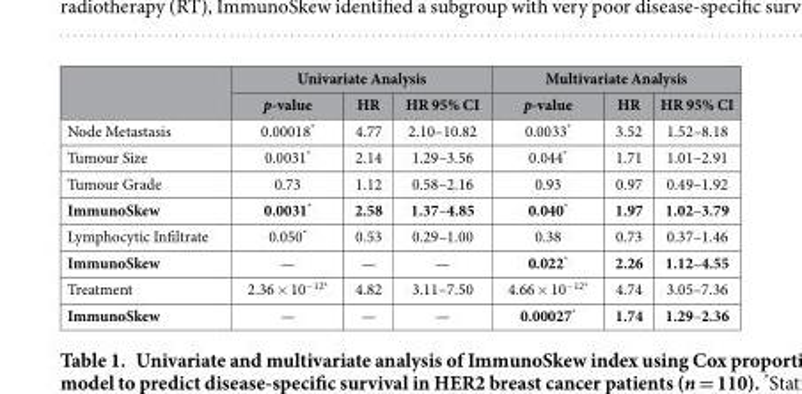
<table><thead><tr><td rowspan="2"></td><td colspan="3">Univariate Analysis</td><td colspan="3">Multivariate Analysis</td></tr><tr><td>p-value</td><td>HR</td><td>HR 95% CI</td><td>p-value</td><td>HR</td><td>HR 95% CI</td></tr></thead><tbody><tr><td>Node Metastasis</td><td>0.00018*</td><td>4.77</td><td>2.10–10.82</td><td>0.0033*</td><td>3.52</td><td>1.52–8.18</td></tr><tr><td>Tumour Size</td><td>0.0031*</td><td>2.14</td><td>1.29–3.56</td><td>0.044*</td><td>1.71</td><td>1.01–2.91</td></tr><tr><td>Tumour Grade</td><td>0.73</td><td>1.12</td><td>0.58–2.16</td><td>0.93</td><td>0.97</td><td>0.49–1.92</td></tr><tr><td>ImmunoSkew</td><td>0.0031*</td><td>2.58</td><td>1.37–4.85</td><td>0.040*</td><td>1.97</td><td>1.02–3.79</td></tr><tr><td>Lymphocytic Infiltrate</td><td>0.050*</td><td>0.53</td><td>0.29–1.00</td><td>0.38</td><td>0.73</td><td>0.37–1.46</td></tr><tr><td>ImmunoSkew</td><td>—</td><td>—</td><td>—</td><td>0.022*</td><td>2.26</td><td>1.12–4.55</td></tr><tr><td>Treatment</td><td>2.36 × 10<sup>−12</sup>*</td><td>4.82</td><td>3.11–7.50</td><td>4.66 × 10<sup>−12</sup>*</td><td>4.74</td><td>3.05–7.36</td></tr><tr><td>ImmunoSkew</td><td>—</td><td>—</td><td>—</td><td>0.00027*</td><td>1.74</td><td>1.29–2.36</td></tr></tbody></table>